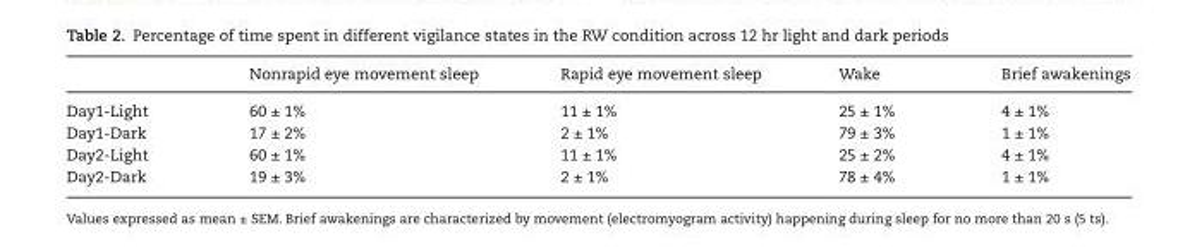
<table><thead><tr><td></td><td>Nonrapid eye movement sleep</td><td>Rapid eye movement sleep</td><td>Wake</td><td>Brief awakenings</td></tr></thead><tbody><tr><td>Day1-Light</td><td>60 ± 1%</td><td>11 ± 1%</td><td>25 ± 1%</td><td>4 ± 1%</td></tr><tr><td>Day1-Dark</td><td>17 ± 2%</td><td>2 ± 1%</td><td>79 ± 3%</td><td>1 ± 1%</td></tr><tr><td>Day2-Light</td><td>60 ± 1%</td><td>11 ± 1%</td><td>25 ± 2%</td><td>4 ± 1%</td></tr><tr><td>Day2-Dark</td><td>19 ± 3%</td><td>2 ± 1%</td><td>78 ± 4%</td><td>1 ± 1%</td></tr></tbody></table>